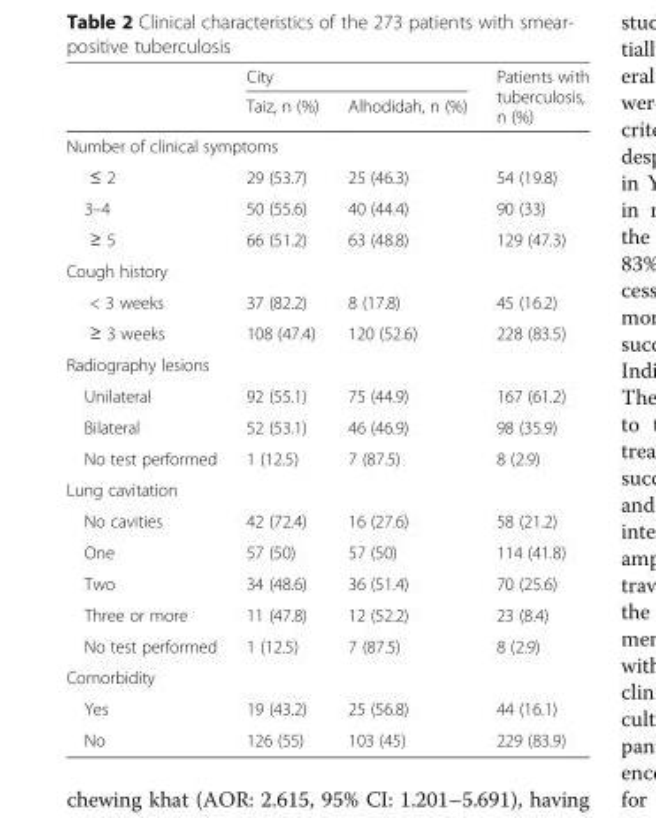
<table><thead><tr><td rowspan="2"></td><td colspan="2">City</td><td rowspan="2">Patients with tuberculosis, n (%)</td></tr><tr><td>Taiz, n (%)</td><td>Alhodidah, n (%)</td></tr></thead><tbody><tr><td colspan="4">Number of clinical symptoms</td></tr><tr><td>≤ 2</td><td>29 (53.7)</td><td>25 (46.3)</td><td>54 (19.8)</td></tr><tr><td>3–4</td><td>50 (55.6)</td><td>40 (44.4)</td><td>90 (33)</td></tr><tr><td>≥ 5</td><td>66 (51.2)</td><td>63 (48.8)</td><td>129 (47.3)</td></tr><tr><td colspan="4">Cough history</td></tr><tr><td>&lt; 3 weeks</td><td>37 (82.2)</td><td>8 (17.8)</td><td>45 (16.2)</td></tr><tr><td>≥ 3 weeks</td><td>108 (47.4)</td><td>120 (52.6)</td><td>228 (83.5)</td></tr><tr><td colspan="4">Radiography lesions</td></tr><tr><td>Unilateral</td><td>92 (55.1)</td><td>75 (44.9)</td><td>167 (61.2)</td></tr><tr><td>Bilateral</td><td>52 (53.1)</td><td>46 (46.9)</td><td>98 (35.9)</td></tr><tr><td>No test performed</td><td>1 (12.5)</td><td>7 (87.5)</td><td>8 (2.9)</td></tr><tr><td colspan="4">Lung cavitation</td></tr><tr><td>No cavities</td><td>42 (72.4)</td><td>16 (27.6)</td><td>58 (21.2)</td></tr><tr><td>One</td><td>57 (50)</td><td>57 (50)</td><td>114 (41.8)</td></tr><tr><td>Two</td><td>34 (48.6)</td><td>36 (51.4)</td><td>70 (25.6)</td></tr><tr><td>Three or more</td><td>11 (47.8)</td><td>12 (52.2)</td><td>23 (8.4)</td></tr><tr><td>No test performed</td><td>1 (12.5)</td><td>7 (87.5)</td><td>8 (2.9)</td></tr><tr><td colspan="4">Comorbidity</td></tr><tr><td>Yes</td><td>19 (43.2)</td><td>25 (56.8)</td><td>44 (16.1)</td></tr><tr><td>No</td><td>126 (55)</td><td>103 (45)</td><td>229 (83.9)</td></tr></tbody></table>